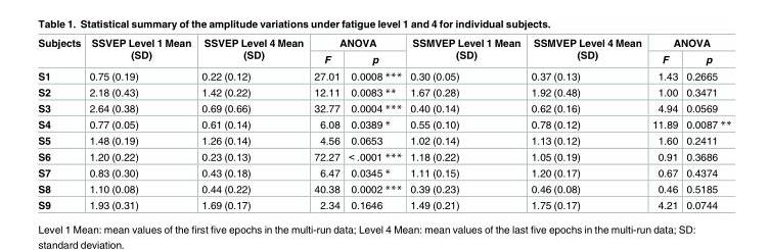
<table><thead><tr><td rowspan="2">Subjects</td><td rowspan="2">SSVEP Level 1 Mean (SD)</td><td rowspan="2">SSVEP Level 4 Mean (SD)</td><td colspan="2">ANOVA</td><td rowspan="2">SSMVEP Level 1 Mean (SD)</td><td rowspan="2">SSMVEP Level 4 Mean (SD)</td><td colspan="2">ANOVA</td></tr><tr><td>F</td><td>p</td><td>F</td><td>p</td></tr></thead><tbody><tr><td>S1</td><td>0.75 (0.19)</td><td>0.22 (0.12)</td><td>27.01</td><td>0.0008 ***</td><td>0.30 (0.05)</td><td>0.37 (0.13)</td><td>1.43</td><td>0.2665</td></tr><tr><td>S2</td><td>2.18 (0.43)</td><td>1.42 (0.22)</td><td>12.11</td><td>0.0083 **</td><td>1.67 (0.28)</td><td>1.92 (0.48)</td><td>1.00</td><td>0.3471</td></tr><tr><td>S3</td><td>2.64 (0.38)</td><td>0.69 (0.66)</td><td>32.77</td><td>0.0004 ***</td><td>0.40 (0.14)</td><td>0.62 (0.16)</td><td>4.94</td><td>0.0569</td></tr><tr><td>S4</td><td>0.77 (0.05)</td><td>0.61 (0.14)</td><td>6.08</td><td>0.0389 *</td><td>0.55 (0.10)</td><td>0.78 (0.12)</td><td>11.89</td><td>0.0087 **</td></tr><tr><td>S5</td><td>1.48 (0.19)</td><td>1.26 (0.14)</td><td>4.56</td><td>0.0653</td><td>1.02 (0.14)</td><td>1.13 (0.12)</td><td>1.60</td><td>0.2411</td></tr><tr><td>S6</td><td>1.20 (0.22)</td><td>0.23 (0.13)</td><td>72.27</td><td>&lt; .0001 ***</td><td>1.18 (0.22)</td><td>1.05 (0.19)</td><td>0.91</td><td>0.3686</td></tr><tr><td>S7</td><td>0.83 (0.30)</td><td>0.43 (0.18)</td><td>6.47</td><td>0.0345 *</td><td>1.11 (0.15)</td><td>1.20 (0.17)</td><td>0.67</td><td>0.4374</td></tr><tr><td>S8</td><td>1.10 (0.08)</td><td>0.44 (0.22)</td><td>40.38</td><td>0.0002 ***</td><td>0.39 (0.23)</td><td>0.46 (0.08)</td><td>0.46</td><td>0.5185</td></tr><tr><td>S9</td><td>1.93 (0.31)</td><td>1.69 (0.17)</td><td>2.34</td><td>0.1646</td><td>1.49 (0.21)</td><td>1.75 (0.17)</td><td>4.21</td><td>0.0744</td></tr></tbody></table>